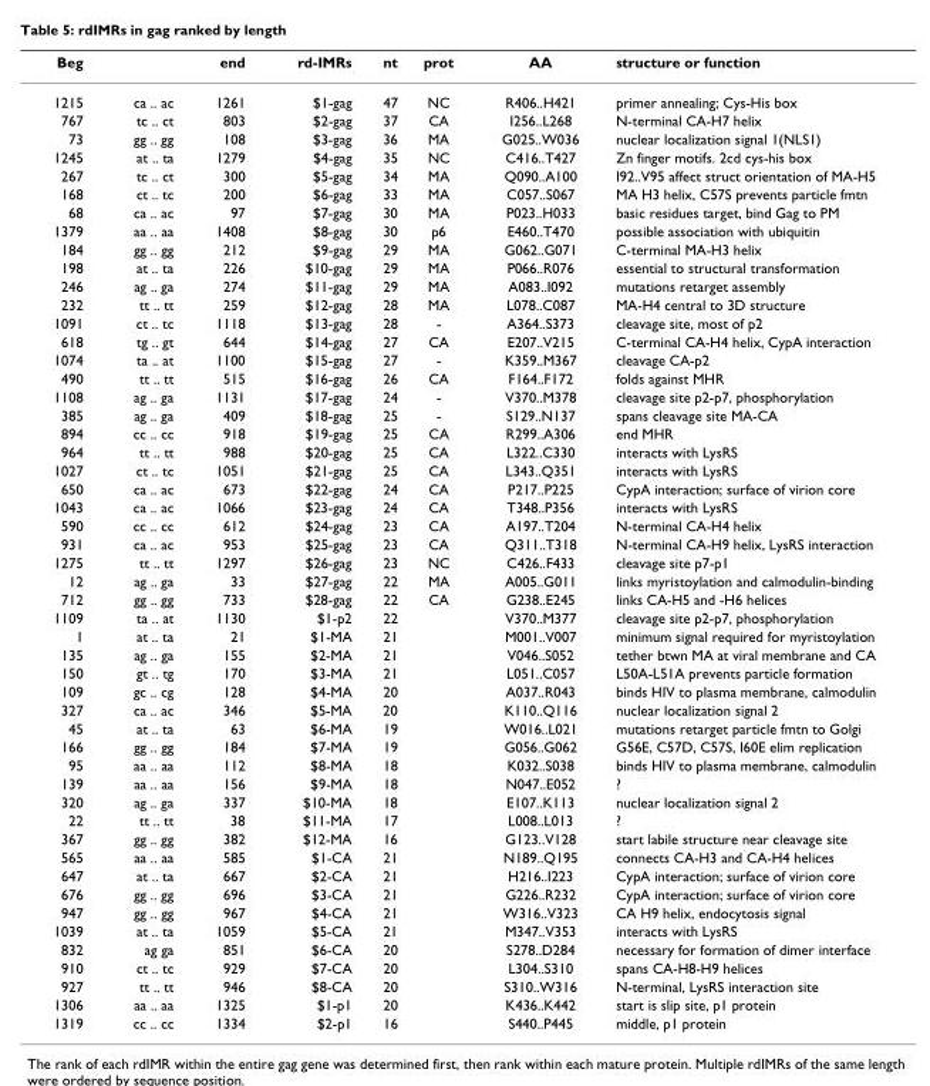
<table><thead><tr><td>Beg</td><td></td><td>end</td><td>rd-IMRs</td><td>nt</td><td>prot</td><td>AA</td><td>structure or function</td></tr></thead><tbody><tr><td>1215</td><td>ca .. ac</td><td>1261</td><td>$1-gag</td><td>47</td><td>NC</td><td>R406..H421</td><td>primer annealing; Cys-His box</td></tr><tr><td>767</td><td>tc .. ct</td><td>803</td><td>$2-gag</td><td>37</td><td>CA</td><td>I256..L268</td><td>N-terminal CA-H7 helix</td></tr><tr><td>73</td><td>gg .. gg</td><td>108</td><td>$3-gag</td><td>36</td><td>MA</td><td>G025..W036</td><td>nuclear localization signal 1(NLS1)</td></tr><tr><td>1245</td><td>at .. ta</td><td>1279</td><td>$4-gag</td><td>35</td><td>NC</td><td>C416..T427</td><td>Zn finger motifs. 2cd cys-his box</td></tr><tr><td>267</td><td>tc .. ct</td><td>300</td><td>$5-gag</td><td>34</td><td>MA</td><td>Q090..A100</td><td>I92..V95 affect struct orientation of MA-H5</td></tr><tr><td>168</td><td>ct .. tc</td><td>200</td><td>$6-gag</td><td>33</td><td>MA</td><td>C057..S067</td><td>MA H3 helix, C57S prevents particle fmtn</td></tr><tr><td>68</td><td>ca .. ac</td><td>97</td><td>$7-gag</td><td>30</td><td>MA</td><td>P023..H033</td><td>basic residues target, bind Gag to PM</td></tr><tr><td>1379</td><td>aa .. aa</td><td>1408</td><td>$8-gag</td><td>30</td><td>p6</td><td>E460..T470</td><td>possible association with ubiquitin</td></tr><tr><td>184</td><td>gg .. gg</td><td>212</td><td>$9-gag</td><td>29</td><td>MA</td><td>G062..G071</td><td>C-terminal MA-H3 helix</td></tr><tr><td>198</td><td>at .. ta</td><td>226</td><td>$10-gag</td><td>29</td><td>MA</td><td>P066..R076</td><td>essential to structural transformation</td></tr><tr><td>246</td><td>ag .. ga</td><td>274</td><td>$11-gag</td><td>29</td><td>MA</td><td>A083..I092</td><td>mutations retarget assembly</td></tr><tr><td>232</td><td>tt .. tt</td><td>259</td><td>$12-gag</td><td>28</td><td>MA</td><td>L078..C087</td><td>MA-H4 central to 3D structure</td></tr><tr><td>1091</td><td>ct .. tc</td><td>1118</td><td>$13-gag</td><td>28</td><td>-</td><td>A364..S373</td><td>cleavage site, most of p2</td></tr><tr><td>618</td><td>tg .. gt</td><td>644</td><td>$14-gag</td><td>27</td><td>CA</td><td>E207..V215</td><td>C-terminal CA-H4 helix, CypA interaction</td></tr><tr><td>1074</td><td>ta .. at</td><td>1100</td><td>$15-gag</td><td>27</td><td>-</td><td>K359..M367</td><td>cleavage CA-p2</td></tr><tr><td>490</td><td>tt .. tt</td><td>515</td><td>$16-gag</td><td>26</td><td>CA</td><td>F164..F172</td><td>folds against MHR</td></tr><tr><td>1108</td><td>ag .. ga</td><td>1131</td><td>$17-gag</td><td>24</td><td>-</td><td>V370..M378</td><td>cleavage site p2-p7, phosphorylation</td></tr><tr><td>385</td><td>ag .. ga</td><td>409</td><td>$18-gag</td><td>25</td><td>-</td><td>S129..N137</td><td>spans cleavage site MA-CA</td></tr><tr><td>894</td><td>cc .. cc</td><td>918</td><td>$19-gag</td><td>25</td><td>CA</td><td>R299..A306</td><td>end MHR</td></tr><tr><td>964</td><td>tt .. tt</td><td>988</td><td>$20-gag</td><td>25</td><td>CA</td><td>L322..C330</td><td>interacts with LysRS</td></tr><tr><td>1027</td><td>ct .. tc</td><td>1051</td><td>$21-gag</td><td>25</td><td>CA</td><td>L343..Q351</td><td>interacts with LysRS</td></tr><tr><td>650</td><td>ca .. ac</td><td>673</td><td>$22-gag</td><td>24</td><td>CA</td><td>P217..P225</td><td>CypA interaction; surface of virion core</td></tr><tr><td>1043</td><td>ca .. ac</td><td>1066</td><td>$23-gag</td><td>24</td><td>CA</td><td>T348..P356</td><td>interacts with LysRS</td></tr><tr><td>590</td><td>cc .. cc</td><td>612</td><td>$24-gag</td><td>23</td><td>CA</td><td>A197..T204</td><td>N-terminal CA-H4 helix</td></tr><tr><td>931</td><td>ca .. ac</td><td>953</td><td>$25-gag</td><td>23</td><td>CA</td><td>Q311..T318</td><td>N-terminal CA-H9 helix, LysRS interaction</td></tr><tr><td>1275</td><td>tt .. tt</td><td>1297</td><td>$26-gag</td><td>23</td><td>NC</td><td>C426..F433</td><td>cleavage site p7-p1</td></tr><tr><td>12</td><td>ag .. ga</td><td>33</td><td>$27-gag</td><td>22</td><td>MA</td><td>A005..G011</td><td>links myristoylation and calmodulin-binding</td></tr><tr><td>712</td><td>gg .. gg</td><td>733</td><td>$28-gag</td><td>22</td><td>CA</td><td>G238..E245</td><td>links CA-H5 and -H6 helices</td></tr><tr><td>1109</td><td>ta .. at</td><td>1130</td><td>$1-p2</td><td>22</td><td></td><td>V370..M377</td><td>cleavage site p2-p7, phosphorylation</td></tr><tr><td>1</td><td>at .. ta</td><td>21</td><td>$1-MA</td><td>21</td><td></td><td>M001..V007</td><td>minimum signal required for myristoylation</td></tr><tr><td>135</td><td>ag .. ga</td><td>155</td><td>$2-MA</td><td>21</td><td></td><td>V046..S052</td><td>tether btwn MA at viral membrane and CA</td></tr><tr><td>150</td><td>gt .. tg</td><td>170</td><td>$3-MA</td><td>21</td><td></td><td>L051..C057</td><td>L50A-L51A prevents particle formation</td></tr><tr><td>109</td><td>gc .. cg</td><td>128</td><td>$4-MA</td><td>20</td><td></td><td>A037..R043</td><td>binds HIV to plasma membrane, calmodulin</td></tr><tr><td>327</td><td>ca .. ac</td><td>346</td><td>$5-MA</td><td>20</td><td></td><td>K110..Q116</td><td>nuclear localization signal 2</td></tr><tr><td>45</td><td>at .. ta</td><td>63</td><td>$6-MA</td><td>19</td><td></td><td>W016..L021</td><td>mutations retarget particle fmtn to Golgi</td></tr><tr><td>166</td><td>gg .. gg</td><td>184</td><td>$7-MA</td><td>19</td><td></td><td>G056..G062</td><td>G56E, C57D, C57S, I60E elim replication</td></tr><tr><td>95</td><td>aa .. aa</td><td>112</td><td>$8-MA</td><td>18</td><td></td><td>K032..S038</td><td>binds HIV to plasma membrane, calmodulin</td></tr><tr><td>139</td><td>aa .. aa</td><td>156</td><td>$9-MA</td><td>18</td><td></td><td>N047..E052</td><td>?</td></tr><tr><td>320</td><td>ag .. ga</td><td>337</td><td>$10-MA</td><td>18</td><td></td><td>E107..K113</td><td>nuclear localization signal 2</td></tr><tr><td>22</td><td>tt .. tt</td><td>38</td><td>$11-MA</td><td>17</td><td></td><td>L008..L013</td><td>?</td></tr><tr><td>367</td><td>gg .. gg</td><td>382</td><td>$12-MA</td><td>16</td><td></td><td>G123..V128</td><td>start labile structure near cleavage site</td></tr><tr><td>565</td><td>aa .. aa</td><td>585</td><td>$1-CA</td><td>21</td><td></td><td>N189..Q195</td><td>connects CA-H3 and CA-H4 helices</td></tr><tr><td>647</td><td>at .. ta</td><td>667</td><td>$2-CA</td><td>21</td><td></td><td>H216..I223</td><td>CypA interaction; surface of virion core</td></tr><tr><td>676</td><td>gg .. gg</td><td>696</td><td>$3-CA</td><td>21</td><td></td><td>G226..R232</td><td>CypA interaction; surface of virion core</td></tr><tr><td>947</td><td>gg .. gg</td><td>967</td><td>$4-CA</td><td>21</td><td></td><td>W316..V323</td><td>CA H9 helix, endocytosis signal</td></tr><tr><td>1039</td><td>at .. ta</td><td>1059</td><td>$5-CA</td><td>21</td><td></td><td>M347..V353</td><td>interacts with LysRS</td></tr><tr><td>832</td><td>ag ga</td><td>851</td><td>$6-CA</td><td>20</td><td></td><td>S278..D284</td><td>necessary for formation of dimer interface</td></tr><tr><td>910</td><td>ct .. tc</td><td>929</td><td>$7-CA</td><td>20</td><td></td><td>L304..S310</td><td>spans CA-H8-H9 helices</td></tr><tr><td>927</td><td>tt .. tt</td><td>946</td><td>$8-CA</td><td>20</td><td></td><td>S310..W316</td><td>N-terminal, LysRS interaction site</td></tr><tr><td>1306</td><td>aa .. aa</td><td>1325</td><td>$1-p1</td><td>20</td><td></td><td>K436..K442</td><td>start is slip site, p1 protein</td></tr><tr><td>1319</td><td>cc .. cc</td><td>1334</td><td>$2-p1</td><td>16</td><td></td><td>S440..P445</td><td>middle, p1 protein</td></tr></tbody></table>